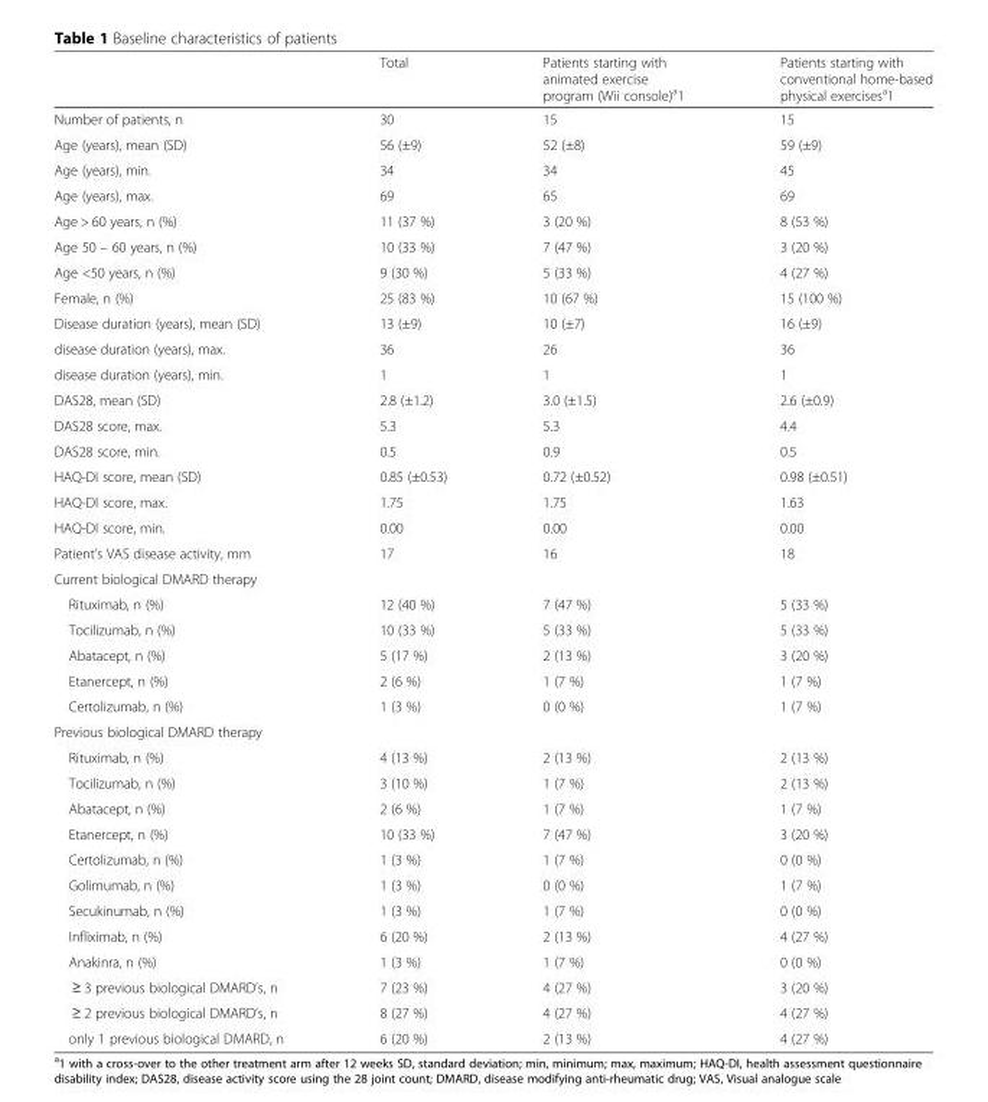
<table><thead><tr><td></td><td>Total</td><td>Patients starting with animated exercise program (Wii console)<sup>a</sup>1</td><td>Patients starting with conventional home-based physical exercises<sup>a</sup>1</td></tr></thead><tbody><tr><td>Number of patients, n</td><td>30</td><td>15</td><td>15</td></tr><tr><td>Age (years), mean (SD)</td><td>56 (±9)</td><td>52 (±8)</td><td>59 (±9)</td></tr><tr><td>Age (years), min.</td><td>34</td><td>34</td><td>45</td></tr><tr><td>Age (years), max.</td><td>69</td><td>65</td><td>69</td></tr><tr><td>Age &gt; 60 years, n (%)</td><td>11 (37 %)</td><td>3 (20 %)</td><td>8 (53 %)</td></tr><tr><td>Age 50 – 60 years, n (%)</td><td>10 (33 %)</td><td>7 (47 %)</td><td>3 (20 %)</td></tr><tr><td>Age &lt;50 years, n (%)</td><td>9 (30 %)</td><td>5 (33 %)</td><td>4 (27 %)</td></tr><tr><td>Female, n (%)</td><td>25 (83 %)</td><td>10 (67 %)</td><td>15 (100 %)</td></tr><tr><td>Disease duration (years), mean (SD)</td><td>13 (±9)</td><td>10 (±7)</td><td>16 (±9)</td></tr><tr><td>disease duration (years), max.</td><td>36</td><td>26</td><td>36</td></tr><tr><td>disease duration (years), min.</td><td>1</td><td>1</td><td>1</td></tr><tr><td>DAS28, mean (SD)</td><td>2.8 (±1.2)</td><td>3.0 (±1.5)</td><td>2.6 (±0.9)</td></tr><tr><td>DAS28 score, max.</td><td>5.3</td><td>5.3</td><td>4.4</td></tr><tr><td>DAS28 score, min.</td><td>0.5</td><td>0.9</td><td>0.5</td></tr><tr><td>HAQ-DI score, mean (SD)</td><td>0.85 (±0.53)</td><td>0.72 (±0.52)</td><td>0.98 (±0.51)</td></tr><tr><td>HAQ-DI score, max.</td><td>1.75</td><td>1.75</td><td>1.63</td></tr><tr><td>HAQ-DI score, min.</td><td>0.00</td><td>0.00</td><td>0.00</td></tr><tr><td>Patient’s VAS disease activity, mm</td><td>17</td><td>16</td><td>18</td></tr><tr><td colspan="4">Current biological DMARD therapy</td></tr><tr><td>Rituximab, n (%)</td><td>12 (40 %)</td><td>7 (47 %)</td><td>5 (33 %)</td></tr><tr><td>Tocilizumab, n (%)</td><td>10 (33 %)</td><td>5 (33 %)</td><td>5 (33 %)</td></tr><tr><td>Abatacept, n (%)</td><td>5 (17 %)</td><td>2 (13 %)</td><td>3 (20 %)</td></tr><tr><td>Etanercept, n (%)</td><td>2 (6 %)</td><td>1 (7 %)</td><td>1 (7 %)</td></tr><tr><td>Certolizumab, n (%)</td><td>1 (3 %)</td><td>0 (0 %)</td><td>1 (7 %)</td></tr><tr><td colspan="4">Previous biological DMARD therapy</td></tr><tr><td>Rituximab, n (%)</td><td>4 (13 %)</td><td>2 (13 %)</td><td>2 (13 %)</td></tr><tr><td>Tocilizumab, n (%)</td><td>3 (10 %)</td><td>1 (7 %)</td><td>2 (13 %)</td></tr><tr><td>Abatacept, n (%)</td><td>2 (6 %)</td><td>1 (7 %)</td><td>1 (7 %)</td></tr><tr><td>Etanercept, n (%)</td><td>10 (33 %)</td><td>7 (47 %)</td><td>3 (20 %)</td></tr><tr><td>Certolizumab, n (%)</td><td>1 (3 %)</td><td>1 (7 %)</td><td>0 (0 %)</td></tr><tr><td>Golimumab, n (%)</td><td>1 (3 %)</td><td>0 (0 %)</td><td>1 (7 %)</td></tr><tr><td>Secukinumab, n (%)</td><td>1 (3 %)</td><td>1 (7 %)</td><td>0 (0 %)</td></tr><tr><td>Infliximab, n (%)</td><td>6 (20 %)</td><td>2 (13 %)</td><td>4 (27 %)</td></tr><tr><td>Anakinra, n (%)</td><td>1 (3 %)</td><td>1 (7 %)</td><td>0 (0 %)</td></tr><tr><td>≥ 3 previous biological DMARD’s, n</td><td>7 (23 %)</td><td>4 (27 %)</td><td>3 (20 %)</td></tr><tr><td>≥ 2 previous biological DMARD’s, n</td><td>8 (27 %)</td><td>4 (27 %)</td><td>4 (27 %)</td></tr><tr><td>only 1 previous biological DMARD, n</td><td>6 (20 %)</td><td>2 (13 %)</td><td>4 (27 %)</td></tr></tbody></table>